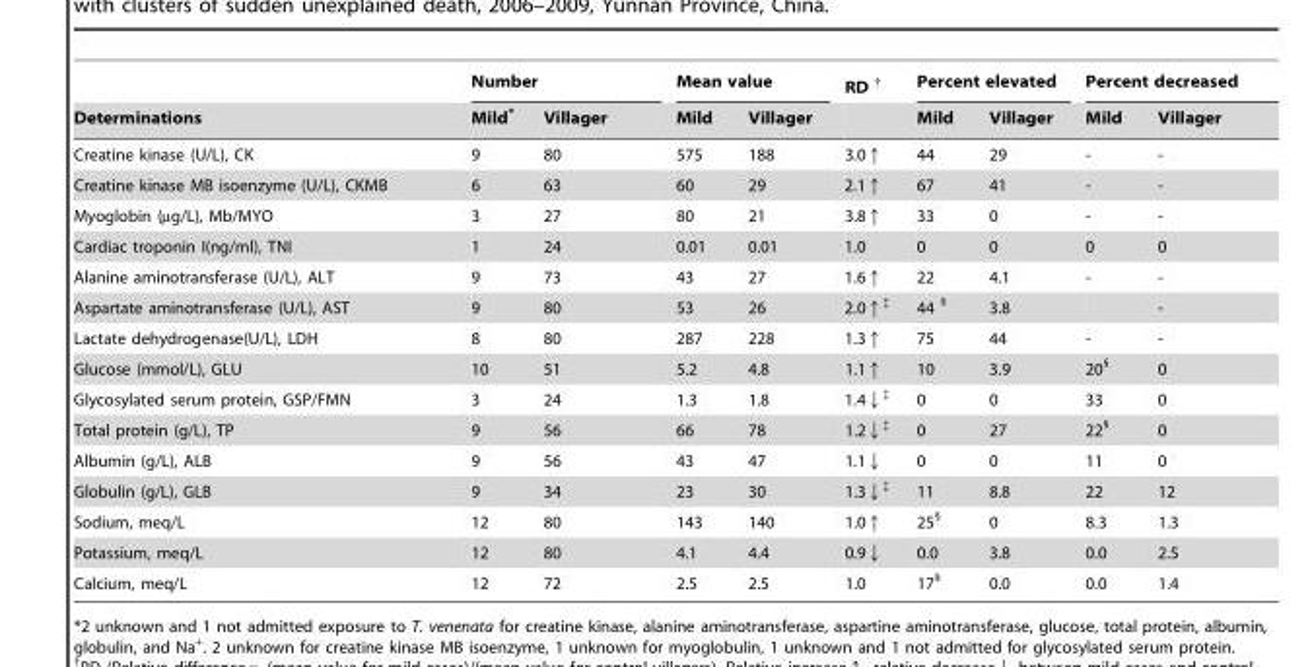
<table><thead><tr><td rowspan="2">Determinations</td><td colspan="2">Number</td><td colspan="2">Mean value</td><td rowspan="2">RD †</td><td colspan="2">Percent elevated</td><td colspan="2">Percent decreased</td></tr><tr><td>Mild*</td><td>Villager</td><td>Mild</td><td>Villager</td><td>Mild</td><td>Villager</td><td>Mild</td><td>Villager</td></tr></thead><tbody><tr><td>Creatine kinase (U/L), CK</td><td>9</td><td>80</td><td>575</td><td>188</td><td>3.0↑</td><td>44</td><td>29</td><td>-</td><td>-</td></tr><tr><td>Creatine kinase MB isoenzyme (U/L), CKMB</td><td>6</td><td>63</td><td>60</td><td>29</td><td>2.1↑</td><td>67</td><td>41</td><td>-</td><td>-</td></tr><tr><td>Myoglobin (µg/L), Mb/MYO</td><td>3</td><td>27</td><td>80</td><td>21</td><td>3.8↑</td><td>33</td><td>0</td><td>-</td><td>-</td></tr><tr><td>Cardiac troponin I(ng/ml), TNI</td><td>1</td><td>24</td><td>0.01</td><td>0.01</td><td>1.0</td><td>0</td><td>0</td><td>0</td><td>0</td></tr><tr><td>Alanine aminotransferase (U/L), ALT</td><td>9</td><td>73</td><td>43</td><td>27</td><td>1.6↑</td><td>22</td><td>4.1</td><td>-</td><td>-</td></tr><tr><td>Aspartate aminotransferase (U/L), AST</td><td>9</td><td>80</td><td>53</td><td>26</td><td>2.0↑‡</td><td>44 §</td><td>3.8</td><td></td><td>-</td></tr><tr><td>Lactate dehydrogenase(U/L), LDH</td><td>8</td><td>80</td><td>287</td><td>228</td><td>1.3↑</td><td>75</td><td>44</td><td>-</td><td>-</td></tr><tr><td>Glucose (mmol/L), GLU</td><td>10</td><td>51</td><td>5.2</td><td>4.8</td><td>1.1↑</td><td>10</td><td>3.9</td><td>20§</td><td>0</td></tr><tr><td>Glycosylated serum protein, GSP/FMN</td><td>3</td><td>24</td><td>1.3</td><td>1.8</td><td>1.4↓‡</td><td>0</td><td>0</td><td>33</td><td>0</td></tr><tr><td>Total protein (g/L), TP</td><td>9</td><td>56</td><td>66</td><td>78</td><td>1.2↓‡</td><td>0</td><td>27</td><td>22§</td><td>0</td></tr><tr><td>Albumin (g/L), ALB</td><td>9</td><td>56</td><td>43</td><td>47</td><td>1.1↓</td><td>0</td><td>0</td><td>11</td><td>0</td></tr><tr><td>Globulin (g/L), GLB</td><td>9</td><td>34</td><td>23</td><td>30</td><td>1.3↓‡</td><td>11</td><td>8.8</td><td>22</td><td>12</td></tr><tr><td>Sodium, meq/L</td><td>12</td><td>80</td><td>143</td><td>140</td><td>1.0↑</td><td>25§</td><td>0</td><td>8.3</td><td>1.3</td></tr><tr><td>Potassium, meq/L</td><td>12</td><td>80</td><td>4.1</td><td>4.4</td><td>0.9↓</td><td>0.0</td><td>3.8</td><td>0.0</td><td>2.5</td></tr><tr><td>Calcium, meq/L</td><td>12</td><td>72</td><td>2.5</td><td>2.5</td><td>1.0</td><td>17§</td><td>0.0</td><td>0.0</td><td>1.4</td></tr></tbody></table>